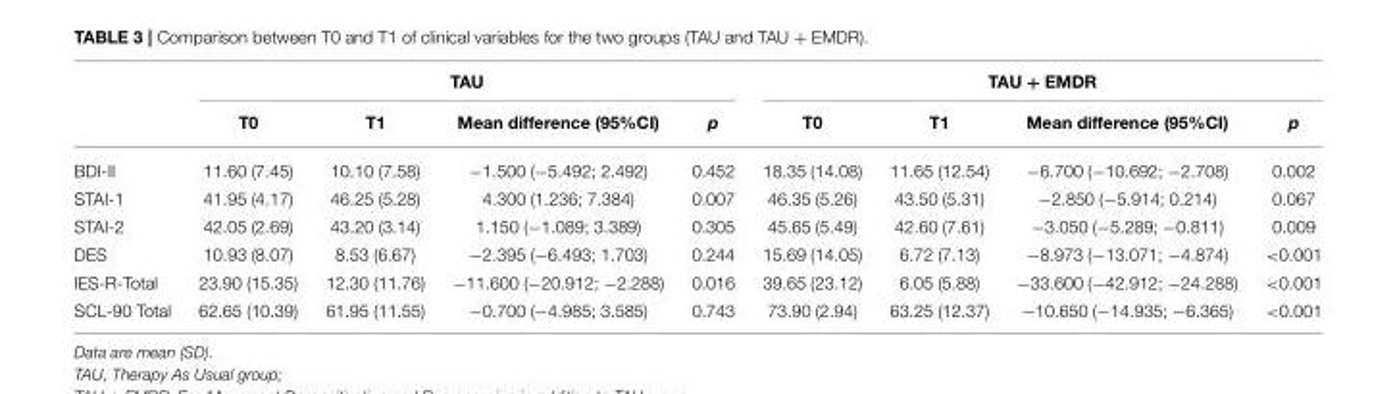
<table><thead><tr><td rowspan="2"></td><td colspan="4">TAU</td><td colspan="4">TAU + EMDR</td></tr><tr><td>T0</td><td>T1</td><td>Mean difference (95%CI)</td><td>p</td><td>T0</td><td>T1</td><td>Mean difference (95%CI)</td><td>p</td></tr></thead><tbody><tr><td>BDI-II</td><td>11.60 (7.45)</td><td>10.10 (7.58)</td><td>−1.500 (−5.492; 2.492)</td><td>0.452</td><td>18.35 (14.08)</td><td>11.65 (12.54)</td><td>−6.700 (−10.692; −2.708)</td><td>0.002</td></tr><tr><td>STAI-1</td><td>41.95 (4.17)</td><td>46.25 (5.28)</td><td>4.300 (1.236; 7.384)</td><td>0.007</td><td>46.35 (5.26)</td><td>43.50 (5.31)</td><td>−2.850 (−5.914; 0.214)</td><td>0.067</td></tr><tr><td>STAI-2</td><td>42.05 (2.69)</td><td>43.20 (3.14)</td><td>1.150 (−1.089; 3.389)</td><td>0.305</td><td>45.65 (5.49)</td><td>42.60 (7.61)</td><td>−3.050 (−5.289; −0.811)</td><td>0.009</td></tr><tr><td>DES</td><td>10.93 (8.07)</td><td>8.53 (6.67)</td><td>−2.395 (−6.493; 1.703)</td><td>0.244</td><td>15.69 (14.05)</td><td>6.72 (7.13)</td><td>−8.973 (−13.071; −4.874)</td><td>&lt;0.001</td></tr><tr><td>IES-R-Total</td><td>23.90 (15.35)</td><td>12.30 (11.76)</td><td>−11.600 (−20.912; −2.288)</td><td>0.016</td><td>39.65 (23.12)</td><td>6.05 (5.88)</td><td>−33.600 (−42.912; −24.288)</td><td>&lt;0.001</td></tr><tr><td>SCL-90 Total</td><td>62.65 (10.39)</td><td>61.95 (11.55)</td><td>−0.700 (−4.985; 3.585)</td><td>0.743</td><td>73.90 (2.94)</td><td>63.25 (12.37)</td><td>−10.650 (−14.935; −6.365)</td><td>&lt;0.001</td></tr></tbody></table>